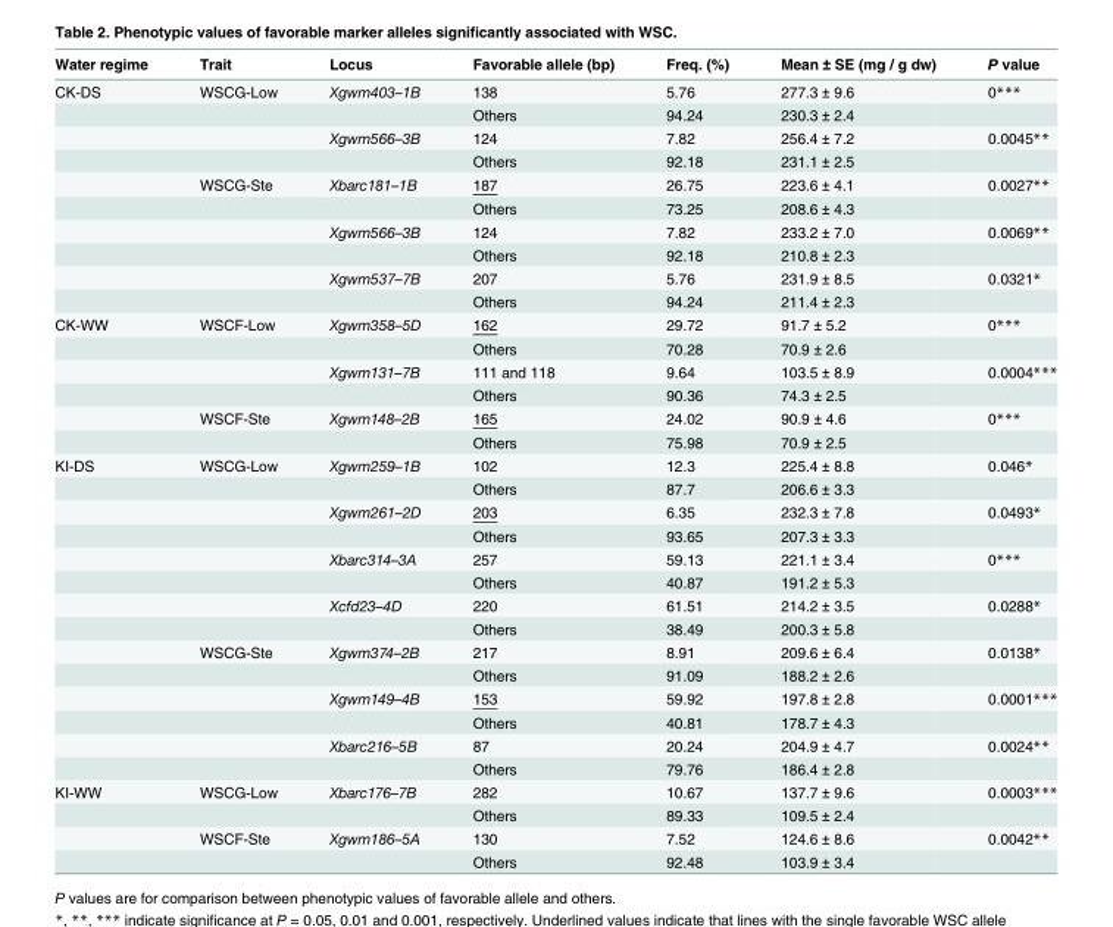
<table><thead><tr><td>Water regime</td><td>Trait</td><td>Locus</td><td>Favorable allele (bp)</td><td>Freq. (%)</td><td>Mean ± SE (mg / g dw)</td><td>P value</td></tr></thead><tbody><tr><td rowspan="10">CK-DS</td><td>WSCG-Low</td><td>Xgwm403–1B</td><td>138</td><td>5.76</td><td>277.3 ± 9.6</td><td>0***</td></tr><tr><td></td><td></td><td>Others</td><td>94.24</td><td>230.3 ± 2.4</td><td></td></tr><tr><td></td><td>Xgwm566–3B</td><td>124</td><td>7.82</td><td>256.4 ± 7.2</td><td>0.0045**</td></tr><tr><td></td><td></td><td>Others</td><td>92.18</td><td>231.1 ± 2.5</td><td></td></tr><tr><td>WSCG-Ste</td><td>Xbarc181–1B</td><td>187</td><td>26.75</td><td>223.6 ± 4.1</td><td>0.0027**</td></tr><tr><td></td><td></td><td>Others</td><td>73.25</td><td>208.6 ± 4.3</td><td></td></tr><tr><td></td><td>Xgwm566–3B</td><td>124</td><td>7.82</td><td>233.2 ± 7.0</td><td>0.0069**</td></tr><tr><td></td><td></td><td>Others</td><td>92.18</td><td>210.8 ± 2.3</td><td></td></tr><tr><td></td><td>Xgwm537–7B</td><td>207</td><td>5.76</td><td>231.9 ± 8.5</td><td>0.0321*</td></tr><tr><td></td><td></td><td>Others</td><td>94.24</td><td>211.4 ± 2.3</td><td></td></tr><tr><td rowspan="6">CK-WW</td><td>WSCF-Low</td><td>Xgwm358–5D</td><td>162</td><td>29.72</td><td>91.7 ± 5.2</td><td>0***</td></tr><tr><td></td><td></td><td>Others</td><td>70.28</td><td>70.9 ± 2.6</td><td></td></tr><tr><td></td><td>Xgwm131–7B</td><td>111 and 118</td><td>9.64</td><td>103.5 ± 8.9</td><td>0.0004***</td></tr><tr><td></td><td></td><td>Others</td><td>90.36</td><td>74.3 ± 2.5</td><td></td></tr><tr><td>WSCF-Ste</td><td>Xgwm148–2B</td><td>165</td><td>24.02</td><td>90.9 ± 4.6</td><td>0***</td></tr><tr><td></td><td></td><td>Others</td><td>75.98</td><td>70.9 ± 2.5</td><td></td></tr><tr><td rowspan="14">KI-DS</td><td>WSCG-Low</td><td>Xgwm259–1B</td><td>102</td><td>12.3</td><td>225.4 ± 8.8</td><td>0.046*</td></tr><tr><td></td><td></td><td>Others</td><td>87.7</td><td>206.6 ± 3.3</td><td></td></tr><tr><td></td><td>Xgwm261–2D</td><td>203</td><td>6.35</td><td>232.3 ± 7.8</td><td>0.0493*</td></tr><tr><td></td><td></td><td>Others</td><td>93.65</td><td>207.3 ± 3.3</td><td></td></tr><tr><td></td><td>Xbarc314–3A</td><td>257</td><td>59.13</td><td>221.1 ± 3.4</td><td>0***</td></tr><tr><td></td><td></td><td>Others</td><td>40.87</td><td>191.2 ± 5.3</td><td></td></tr><tr><td></td><td>Xcfd23–4D</td><td>220</td><td>61.51</td><td>214.2 ± 3.5</td><td>0.0288*</td></tr><tr><td></td><td></td><td>Others</td><td>38.49</td><td>200.3 ± 5.8</td><td></td></tr><tr><td>WSCG-Ste</td><td>Xgwm374–2B</td><td>217</td><td>8.91</td><td>209.6 ± 6.4</td><td>0.0138*</td></tr><tr><td></td><td></td><td>Others</td><td>91.09</td><td>188.2 ± 2.6</td><td></td></tr><tr><td></td><td>Xgwm149–4B</td><td>153</td><td>59.92</td><td>197.8 ± 2.8</td><td>0.0001***</td></tr><tr><td></td><td></td><td>Others</td><td>40.81</td><td>178.7 ± 4.3</td><td></td></tr><tr><td></td><td>Xbarc216–5B</td><td>87</td><td>20.24</td><td>204.9 ± 4.7</td><td>0.0024**</td></tr><tr><td></td><td></td><td>Others</td><td>79.76</td><td>186.4 ± 2.8</td><td></td></tr><tr><td rowspan="4">KI-WW</td><td>WSCG-Low</td><td>Xbarc176–7B</td><td>282</td><td>10.67</td><td>137.7 ± 9.6</td><td>0.0003***</td></tr><tr><td></td><td></td><td>Others</td><td>89.33</td><td>109.5 ± 2.4</td><td></td></tr><tr><td>WSCF-Ste</td><td>Xgwm186–5A</td><td>130</td><td>7.52</td><td>124.6 ± 8.6</td><td>0.0042**</td></tr><tr><td></td><td></td><td>Others</td><td>92.48</td><td>103.9 ± 3.4</td><td></td></tr></tbody></table>